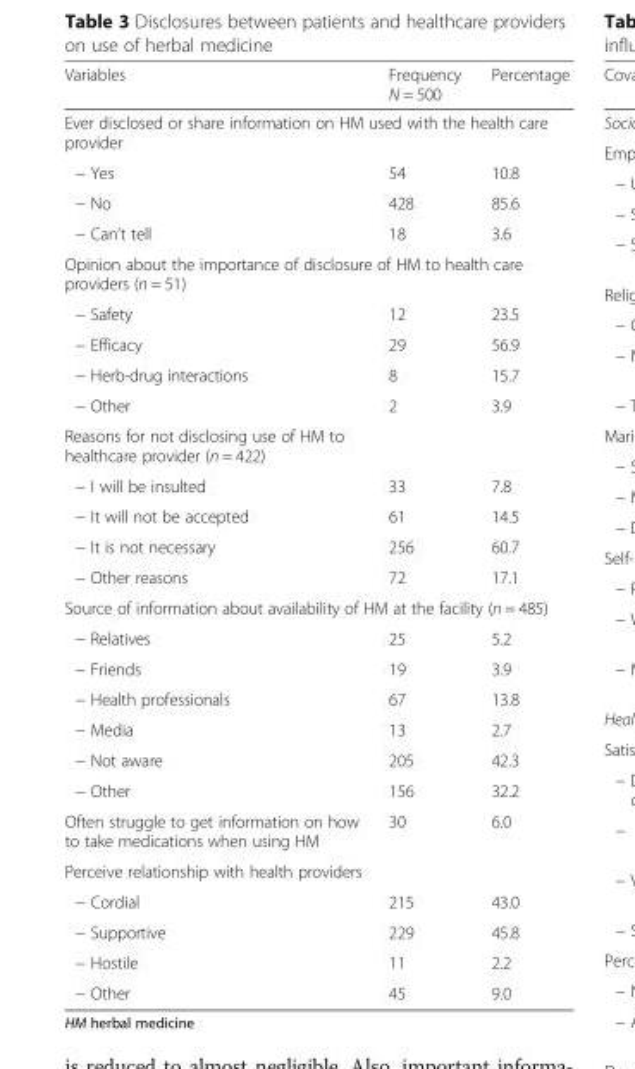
<table><thead><tr><td>Variables</td><td>Frequency N = 500</td><td>Percentage</td></tr></thead><tbody><tr><td colspan="3">Ever disclosed or share information on HM used with the health care provider</td></tr><tr><td>− Yes</td><td>54</td><td>10.8</td></tr><tr><td>− No</td><td>428</td><td>85.6</td></tr><tr><td>− Can’t tell</td><td>18</td><td>3.6</td></tr><tr><td colspan="3">Opinion about the importance of disclosure of HM to health care providers (n = 51)</td></tr><tr><td>− Safety</td><td>12</td><td>23.5</td></tr><tr><td>− Efficacy</td><td>29</td><td>56.9</td></tr><tr><td>− Herb-drug interactions</td><td>8</td><td>15.7</td></tr><tr><td>− Other</td><td>2</td><td>3.9</td></tr><tr><td colspan="3">Reasons for not disclosing use of HM to healthcare provider (n = 422)</td></tr><tr><td>− I will be insulted</td><td>33</td><td>7.8</td></tr><tr><td>− It will not be accepted</td><td>61</td><td>14.5</td></tr><tr><td>− It is not necessary</td><td>256</td><td>60.7</td></tr><tr><td>− Other reasons</td><td>72</td><td>17.1</td></tr><tr><td colspan="3">Source of information about availability of HM at the facility (n = 485)</td></tr><tr><td>− Relatives</td><td>25</td><td>5.2</td></tr><tr><td>− Friends</td><td>19</td><td>3.9</td></tr><tr><td>− Health professionals</td><td>67</td><td>13.8</td></tr><tr><td>− Media</td><td>13</td><td>2.7</td></tr><tr><td>− Not aware</td><td>205</td><td>42.3</td></tr><tr><td>− Other</td><td>156</td><td>32.2</td></tr><tr><td>Often struggle to get information on how to take medications when using HM</td><td>30</td><td>6.0</td></tr><tr><td colspan="3">Perceive relationship with health providers</td></tr><tr><td>− Cordial</td><td>215</td><td>43.0</td></tr><tr><td>− Supportive</td><td>229</td><td>45.8</td></tr><tr><td>− Hostile</td><td>11</td><td>2.2</td></tr><tr><td>− Other</td><td>45</td><td>9.0</td></tr></tbody></table>